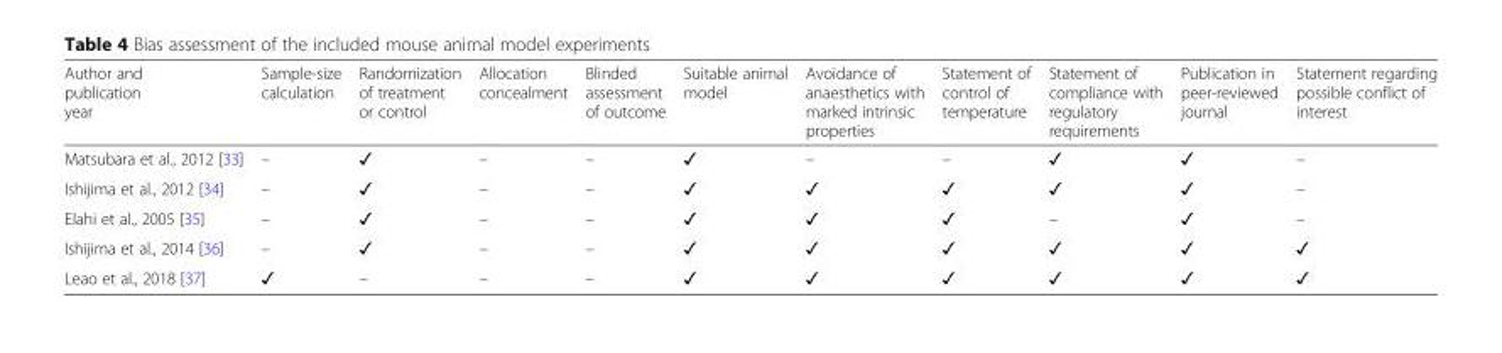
<table><thead><tr><td>Author and publication year</td><td>Sample-size calculation</td><td>Randomization of treatment or control</td><td>Allocation concealment</td><td>Blinded assessment of outcome</td><td>Suitable animal model</td><td>Avoidance of anaesthetics with marked intrinsic properties</td><td>Statement of control of temperature</td><td>Statement of compliance with regulatory requirements</td><td>Publication in peer-reviewed journal</td><td>Statement regarding possible conflict of interest</td></tr></thead><tbody><tr><td>Matsubara et al., 2012 [33]</td><td>–</td><td>✓</td><td>–</td><td>–</td><td>✓</td><td>–</td><td>–</td><td>✓</td><td>✓</td><td>–</td></tr><tr><td>Ishijima et al., 2012 [34]</td><td>–</td><td>✓</td><td>–</td><td>–</td><td>✓</td><td>✓</td><td>✓</td><td>✓</td><td>✓</td><td>–</td></tr><tr><td>Elahi et al., 2005 [35]</td><td>–</td><td>✓</td><td>–</td><td>–</td><td>✓</td><td>✓</td><td>✓</td><td>–</td><td>✓</td><td>–</td></tr><tr><td>Ishijima et al., 2014 [36]</td><td>–</td><td>✓</td><td>–</td><td>–</td><td>✓</td><td>✓</td><td>✓</td><td>✓</td><td>✓</td><td>✓</td></tr><tr><td>Leao et al., 2018 [37]</td><td>✓</td><td>–</td><td>–</td><td>–</td><td>✓</td><td>✓</td><td>✓</td><td>✓</td><td>✓</td><td>✓</td></tr></tbody></table>